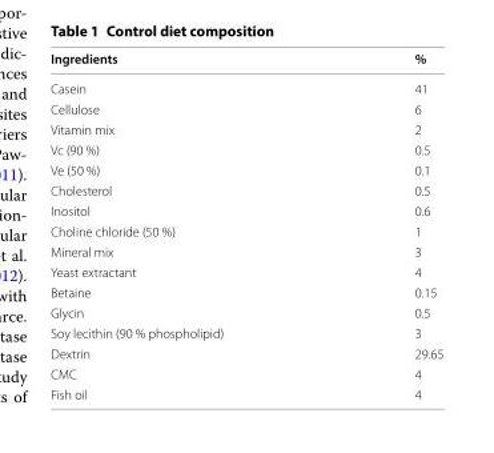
<table><thead><tr><td>Ingredients</td><td>%</td></tr></thead><tbody><tr><td>Casein</td><td>41</td></tr><tr><td>Cellulose</td><td>6</td></tr><tr><td>Vitamin mix</td><td>2</td></tr><tr><td>Vc (90 %)</td><td>0.5</td></tr><tr><td>Ve (50 %)</td><td>0.1</td></tr><tr><td>Cholesterol</td><td>0.5</td></tr><tr><td>Inositol</td><td>0.6</td></tr><tr><td>Choline chloride (50 %)</td><td>1</td></tr><tr><td>Mineral mix</td><td>3</td></tr><tr><td>Yeast extractant</td><td>4</td></tr><tr><td>Betaine</td><td>0.15</td></tr><tr><td>Glycin</td><td>0.5</td></tr><tr><td>Soy lecithin (90 % phospholipid)</td><td>3</td></tr><tr><td>Dextrin</td><td>29.65</td></tr><tr><td>CMC</td><td>4</td></tr><tr><td>Fish oil</td><td>4</td></tr></tbody></table>